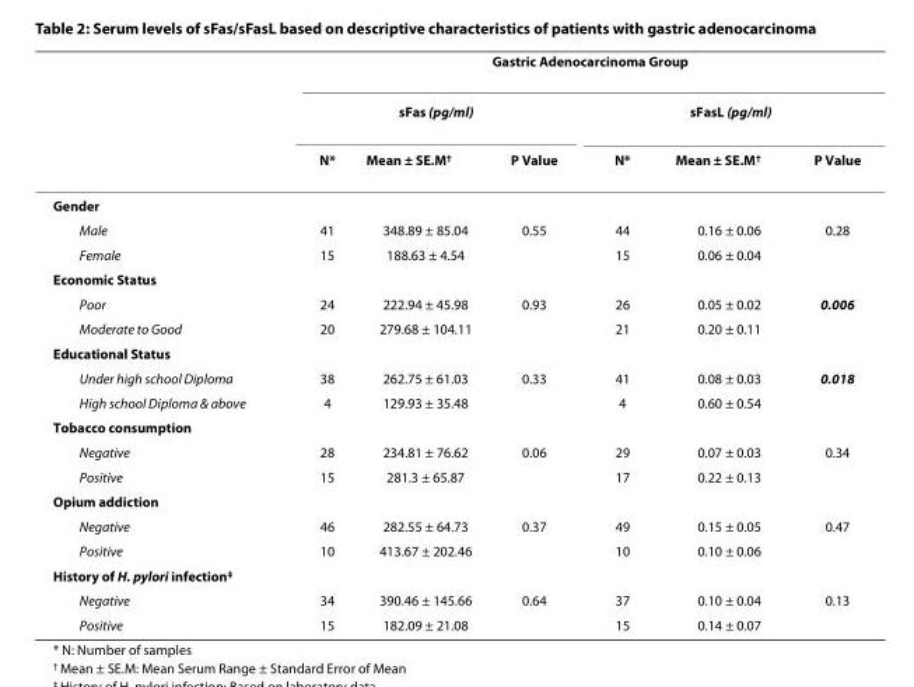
<table><thead><tr><td rowspan="3"></td><td colspan="6">Gastric Adenocarcinoma Group</td></tr><tr><td colspan="3">sFas (pg/ml)</td><td colspan="3">sFasL (pg/ml)</td></tr><tr><td>N*</td><td>Mean ± SE.M<sup>†</sup></td><td>P Value</td><td>N*</td><td>Mean ± SE.M<sup>†</sup></td><td>P Value</td></tr></thead><tbody><tr><td colspan="7">Gender</td></tr><tr><td>Male</td><td>41</td><td>348.89 ± 85.04</td><td>0.55</td><td>44</td><td>0.16 ± 0.06</td><td>0.28</td></tr><tr><td>Female</td><td>15</td><td>188.63 ± 4.54</td><td></td><td>15</td><td>0.06 ± 0.04</td><td></td></tr><tr><td colspan="7">Economic Status</td></tr><tr><td>Poor</td><td>24</td><td>222.94 ± 45.98</td><td>0.93</td><td>26</td><td>0.05 ± 0.02</td><td>0.006</td></tr><tr><td>Moderate to Good</td><td>20</td><td>279.68 ± 104.11</td><td></td><td>21</td><td>0.20 ± 0.11</td><td></td></tr><tr><td colspan="7">Educational Status</td></tr><tr><td>Under high school Diploma</td><td>38</td><td>262.75 ± 61.03</td><td>0.33</td><td>41</td><td>0.08 ± 0.03</td><td>0.018</td></tr><tr><td>High school Diploma &amp; above</td><td>4</td><td>129.93 ± 35.48</td><td></td><td>4</td><td>0.60 ± 0.54</td><td></td></tr><tr><td colspan="7">Tobacco consumption</td></tr><tr><td>Negative</td><td>28</td><td>234.81 ± 76.62</td><td>0.06</td><td>29</td><td>0.07 ± 0.03</td><td>0.34</td></tr><tr><td>Positive</td><td>15</td><td>281.3 ± 65.87</td><td></td><td>17</td><td>0.22 ± 0.13</td><td></td></tr><tr><td colspan="7">Opium addiction</td></tr><tr><td>Negative</td><td>46</td><td>282.55 ± 64.73</td><td>0.37</td><td>49</td><td>0.15 ± 0.05</td><td>0.47</td></tr><tr><td>Positive</td><td>10</td><td>413.67 ± 202.46</td><td></td><td>10</td><td>0.10 ± 0.06</td><td></td></tr><tr><td colspan="7">History of H. pylori infection<sup>‡</sup></td></tr><tr><td>Negative</td><td>34</td><td>390.46 ± 145.66</td><td>0.64</td><td>37</td><td>0.10 ± 0.04</td><td>0.13</td></tr><tr><td>Positive</td><td>15</td><td>182.09 ± 21.08</td><td></td><td>15</td><td>0.14 ± 0.07</td><td></td></tr></tbody></table>